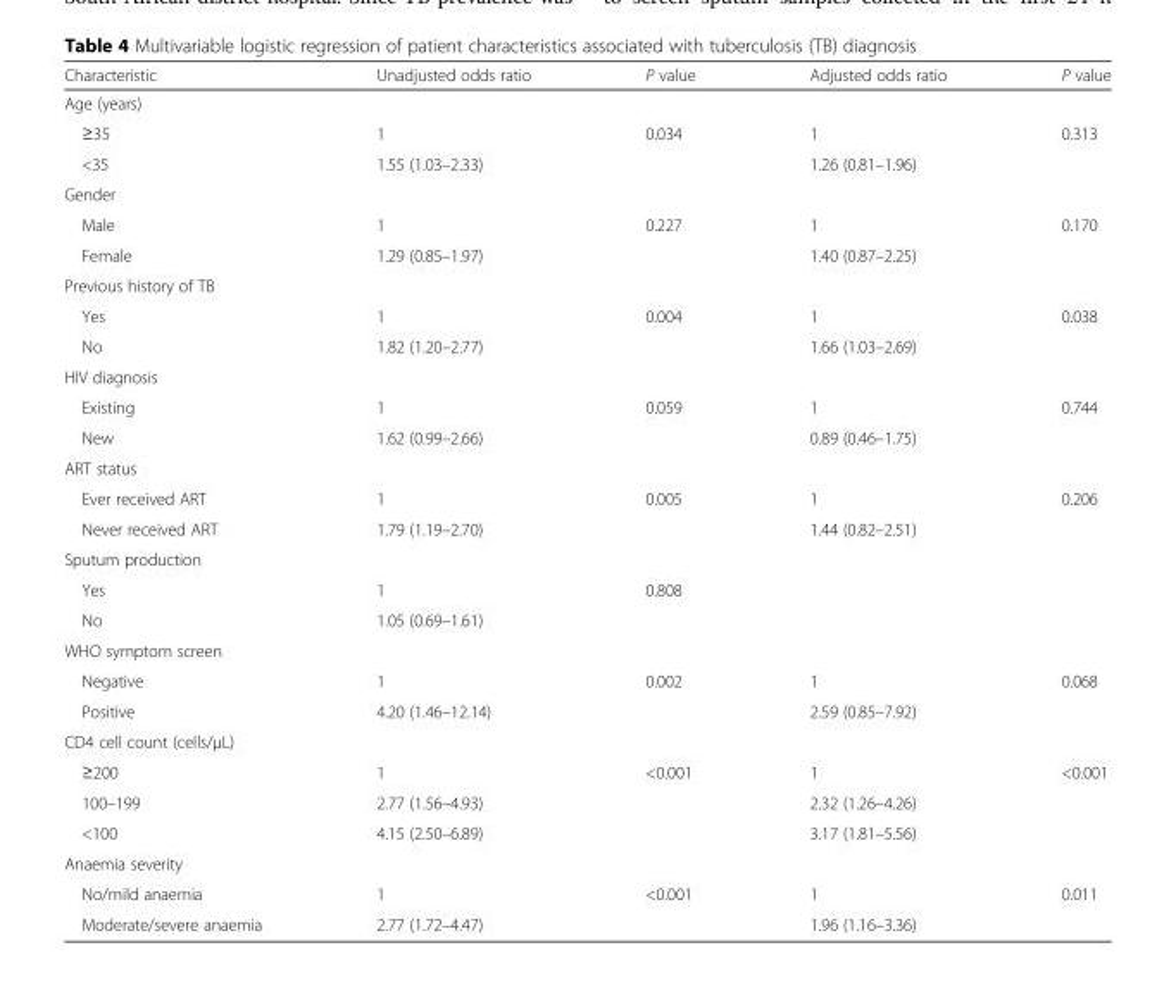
<table><thead><tr><td>Characteristic</td><td>Unadjusted odds ratio</td><td>P value</td><td>Adjusted odds ratio</td><td>P value</td></tr></thead><tbody><tr><td colspan="5">Age (years)</td></tr><tr><td>≥35</td><td>1</td><td>0.034</td><td>1</td><td>0.313</td></tr><tr><td>&lt;35</td><td>1.55 (1.03–2.33)</td><td></td><td>1.26 (0.81–1.96)</td><td></td></tr><tr><td colspan="5">Gender</td></tr><tr><td>Male</td><td>1</td><td>0.227</td><td>1</td><td>0.170</td></tr><tr><td>Female</td><td>1.29 (0.85–1.97)</td><td></td><td>1.40 (0.87–2.25)</td><td></td></tr><tr><td colspan="5">Previous history of TB</td></tr><tr><td>Yes</td><td>1</td><td>0.004</td><td>1</td><td>0.038</td></tr><tr><td>No</td><td>1.82 (1.20–2.77)</td><td></td><td>1.66 (1.03–2.69)</td><td></td></tr><tr><td colspan="5">HIV diagnosis</td></tr><tr><td>Existing</td><td>1</td><td>0.059</td><td>1</td><td>0.744</td></tr><tr><td>New</td><td>1.62 (0.99–2.66)</td><td></td><td>0.89 (0.46–1.75)</td><td></td></tr><tr><td colspan="5">ART status</td></tr><tr><td>Ever received ART</td><td>1</td><td>0.005</td><td>1</td><td>0.206</td></tr><tr><td>Never received ART</td><td>1.79 (1.19–2.70)</td><td></td><td>1.44 (0.82–2.51)</td><td></td></tr><tr><td colspan="5">Sputum production</td></tr><tr><td>Yes</td><td>1</td><td>0.808</td><td></td><td></td></tr><tr><td>No</td><td>1.05 (0.69–1.61)</td><td></td><td></td><td></td></tr><tr><td colspan="5">WHO symptom screen</td></tr><tr><td>Negative</td><td>1</td><td>0.002</td><td>1</td><td>0.068</td></tr><tr><td>Positive</td><td>4.20 (1.46–12.14)</td><td></td><td>2.59 (0.85–7.92)</td><td></td></tr><tr><td colspan="5">CD4 cell count (cells/μL)</td></tr><tr><td>≥200</td><td>1</td><td>&lt;0.001</td><td>1</td><td>&lt;0.001</td></tr><tr><td>100–199</td><td>2.77 (1.56–4.93)</td><td></td><td>2.32 (1.26–4.26)</td><td></td></tr><tr><td>&lt;100</td><td>4.15 (2.50–6.89)</td><td></td><td>3.17 (1.81–5.56)</td><td></td></tr><tr><td colspan="5">Anaemia severity</td></tr><tr><td>No/mild anaemia</td><td>1</td><td>&lt;0.001</td><td>1</td><td>0.011</td></tr><tr><td>Moderate/severe anaemia</td><td>2.77 (1.72–4.47)</td><td></td><td>1.96 (1.16–3.36)</td><td></td></tr></tbody></table>